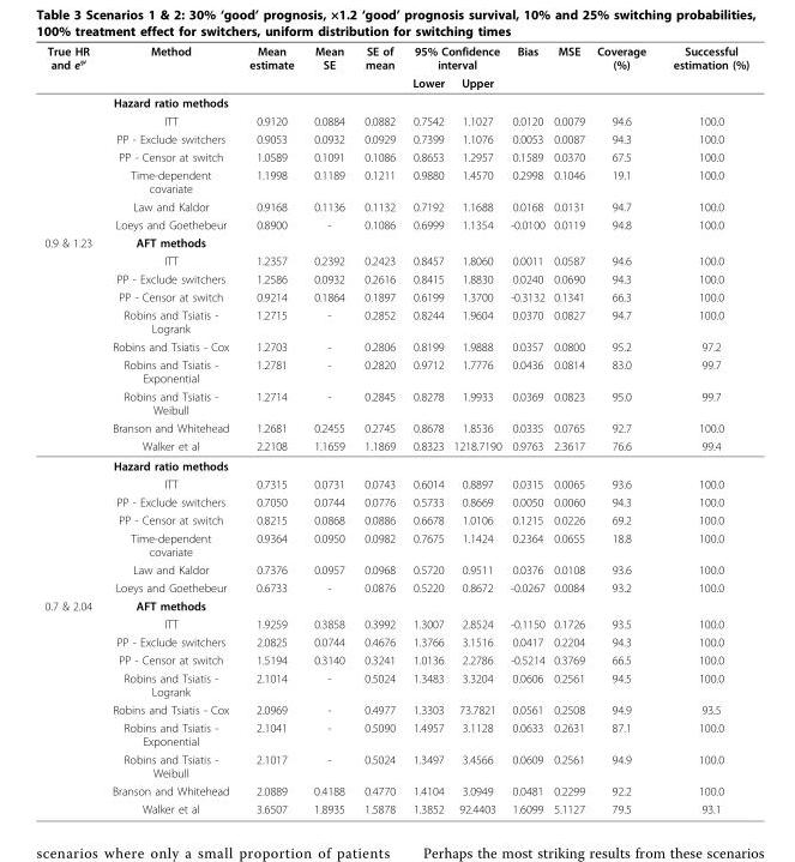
<table><thead><tr><td rowspan="2">True HR and e<sup>ψ</sup></td><td rowspan="2">Method</td><td rowspan="2">Mean estimate</td><td rowspan="2">Mean SE</td><td rowspan="2">SE of mean</td><td colspan="2">95% Confidence interval</td><td rowspan="2">Bias</td><td rowspan="2">MSE</td><td rowspan="2">Coverage (%)</td><td rowspan="2">Successful estimation (%)</td></tr><tr><td>Lower</td><td>Upper</td></tr></thead><tbody><tr><td></td><td>Hazard ratio methods</td><td></td><td></td><td></td><td></td><td></td><td></td><td></td><td></td><td></td></tr><tr><td></td><td>ITT</td><td>0.9120</td><td>0.0884</td><td>0.0882</td><td>0.7542</td><td>1.1027</td><td>0.0120</td><td>0.0079</td><td>94.6</td><td>100.0</td></tr><tr><td></td><td>PP - Exclude switchers</td><td>0.9053</td><td>0.0932</td><td>0.0929</td><td>0.7399</td><td>1.1076</td><td>0.0053</td><td>0.0087</td><td>94.3</td><td>100.0</td></tr><tr><td></td><td>PP - Censor at switch</td><td>1.0589</td><td>0.1091</td><td>0.1086</td><td>0.8653</td><td>1.2957</td><td>0.1589</td><td>0.0370</td><td>67.5</td><td>100.0</td></tr><tr><td></td><td>Time-dependent covariate</td><td>1.1998</td><td>0.1189</td><td>0.1211</td><td>0.9880</td><td>1.4570</td><td>0.2998</td><td>0.1046</td><td>19.1</td><td>100.0</td></tr><tr><td></td><td>Law and Kaldor</td><td>0.9168</td><td>0.1136</td><td>0.1132</td><td>0.7192</td><td>1.1688</td><td>0.0168</td><td>0.0131</td><td>94.7</td><td>100.0</td></tr><tr><td></td><td>Loeys and Goethebeur</td><td>0.8900</td><td>-</td><td>0.1086</td><td>0.6999</td><td>1.1354</td><td>-0.0100</td><td>0.0119</td><td>94.8</td><td>100.0</td></tr><tr><td rowspan="17">0.9 &amp; 1.23</td><td>AFT methods</td><td></td><td></td><td></td><td></td><td></td><td></td><td></td><td></td><td></td></tr><tr><td>ITT</td><td>1.2357</td><td>0.2392</td><td>0.2423</td><td>0.8457</td><td>1.8060</td><td>0.0011</td><td>0.0587</td><td>94.6</td><td>100.0</td></tr><tr><td>PP - Exclude switchers</td><td>1.2586</td><td>0.0932</td><td>0.2616</td><td>0.8415</td><td>1.8830</td><td>0.0240</td><td>0.0690</td><td>94.3</td><td>100.0</td></tr><tr><td>PP - Censor at switch</td><td>0.9214</td><td>0.1864</td><td>0.1897</td><td>0.6199</td><td>1.3700</td><td>-0.3132</td><td>0.1341</td><td>66.3</td><td>100.0</td></tr><tr><td>Robins and Tsiatis - Logrank</td><td>1.2715</td><td>-</td><td>0.2852</td><td>0.8244</td><td>1.9604</td><td>0.0370</td><td>0.0827</td><td>94.7</td><td>100.0</td></tr><tr><td>Robins and Tsiatis - Cox</td><td>1.2703</td><td>-</td><td>0.2806</td><td>0.8199</td><td>1.9888</td><td>0.0357</td><td>0.0800</td><td>95.2</td><td>97.2</td></tr><tr><td>Robins and Tsiatis - Exponential</td><td>1.2781</td><td>-</td><td>0.2820</td><td>0.9712</td><td>1.7776</td><td>0.0436</td><td>0.0814</td><td>83.0</td><td>99.7</td></tr><tr><td>Robins and Tsiatis - Weibull</td><td>1.2714</td><td>-</td><td>0.2845</td><td>0.8278</td><td>1.9933</td><td>0.0369</td><td>0.0823</td><td>95.0</td><td>99.7</td></tr><tr><td>Branson and Whitehead</td><td>1.2681</td><td>0.2455</td><td>0.2745</td><td>0.8678</td><td>1.8536</td><td>0.0335</td><td>0.0765</td><td>92.7</td><td>100.0</td></tr><tr><td>Walker et al</td><td>2.2108</td><td>1.1659</td><td>1.1869</td><td>0.8323</td><td>1218.7190</td><td>0.9763</td><td>2.3617</td><td>76.6</td><td>99.4</td></tr><tr><td>Hazard ratio methods</td><td></td><td></td><td></td><td></td><td></td><td></td><td></td><td></td><td></td></tr><tr><td>ITT</td><td>0.7315</td><td>0.0731</td><td>0.0743</td><td>0.6014</td><td>0.8897</td><td>0.0315</td><td>0.0065</td><td>93.6</td><td>100.0</td></tr><tr><td>PP - Exclude switchers</td><td>0.7050</td><td>0.0744</td><td>0.0776</td><td>0.5733</td><td>0.8669</td><td>0.0050</td><td>0.0060</td><td>94.3</td><td>100.0</td></tr><tr><td>PP - Censor at switch</td><td>0.8215</td><td>0.0868</td><td>0.0886</td><td>0.6678</td><td>1.0106</td><td>0.1215</td><td>0.0226</td><td>69.2</td><td>100.0</td></tr><tr><td>Time-dependent covariate</td><td>0.9364</td><td>0.0950</td><td>0.0982</td><td>0.7675</td><td>1.1424</td><td>0.2364</td><td>0.0655</td><td>18.8</td><td>100.0</td></tr><tr><td>Law and Kaldor</td><td>0.7376</td><td>0.0957</td><td>0.0968</td><td>0.5720</td><td>0.9511</td><td>0.0376</td><td>0.0108</td><td>93.6</td><td>100.0</td></tr><tr><td>Loeys and Goethebeur</td><td>0.6733</td><td>-</td><td>0.0876</td><td>0.5220</td><td>0.8672</td><td>-0.0267</td><td>0.0084</td><td>93.2</td><td>100.0</td></tr><tr><td rowspan="10">0.7 &amp; 2.04</td><td>AFT methods</td><td></td><td></td><td></td><td></td><td></td><td></td><td></td><td></td><td></td></tr><tr><td>ITT</td><td>1.9259</td><td>0.3858</td><td>0.3992</td><td>1.3007</td><td>2.8524</td><td>-0.1150</td><td>0.1726</td><td>93.5</td><td>100.0</td></tr><tr><td>PP - Exclude switchers</td><td>2.0825</td><td>0.0744</td><td>0.4676</td><td>1.3766</td><td>3.1516</td><td>0.0417</td><td>0.2204</td><td>94.3</td><td>100.0</td></tr><tr><td>PP - Censor at switch</td><td>1.5194</td><td>0.3140</td><td>0.3241</td><td>1.0136</td><td>2.2786</td><td>-0.5214</td><td>0.3769</td><td>66.5</td><td>100.0</td></tr><tr><td>Robins and Tsiatis - Logrank</td><td>2.1014</td><td>-</td><td>0.5024</td><td>1.3483</td><td>3.3204</td><td>0.0606</td><td>0.2561</td><td>94.5</td><td>100.0</td></tr><tr><td>Robins and Tsiatis - Cox</td><td>2.0969</td><td>-</td><td>0.4977</td><td>1.3303</td><td>73.7821</td><td>0.0561</td><td>0.2508</td><td>94.9</td><td>93.5</td></tr><tr><td>Robins and Tsiatis - Exponential</td><td>2.1041</td><td>-</td><td>0.5090</td><td>1.4957</td><td>3.1128</td><td>0.0633</td><td>0.2631</td><td>87.1</td><td>100.0</td></tr><tr><td>Robins and Tsiatis - Weibull</td><td>2.1017</td><td>-</td><td>0.5024</td><td>1.3497</td><td>3.4566</td><td>0.0609</td><td>0.2561</td><td>94.9</td><td>100.0</td></tr><tr><td>Branson and Whitehead</td><td>2.0889</td><td>0.4188</td><td>0.4770</td><td>1.4104</td><td>3.0949</td><td>0.0481</td><td>0.2299</td><td>92.2</td><td>100.0</td></tr><tr><td>Walker et al</td><td>3.6507</td><td>1.8935</td><td>1.5878</td><td>1.3852</td><td>92.4403</td><td>1.6099</td><td>5.1127</td><td>79.5</td><td>93.1</td></tr></tbody></table>